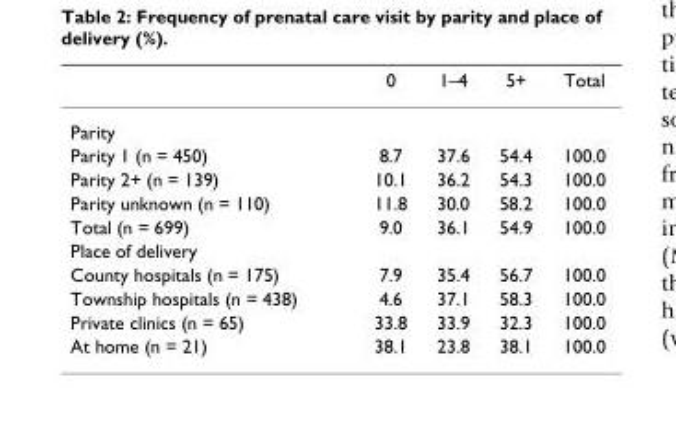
<table><thead><tr><td></td><td>0</td><td>1–4</td><td>5+</td><td>Total</td></tr></thead><tbody><tr><td colspan="5">Parity</td></tr><tr><td>Parity 1 (n = 450)</td><td>8.7</td><td>37.6</td><td>54.4</td><td>100.0</td></tr><tr><td>Parity 2+ (n = 139)</td><td>10.1</td><td>36.2</td><td>54.3</td><td>100.0</td></tr><tr><td>Parity unknown (n = 110)</td><td>11.8</td><td>30.0</td><td>58.2</td><td>100.0</td></tr><tr><td>Total (n = 699)</td><td>9.0</td><td>36.1</td><td>54.9</td><td>100.0</td></tr><tr><td colspan="5">Place of delivery</td></tr><tr><td>County hospitals (n = 175)</td><td>7.9</td><td>35.4</td><td>56.7</td><td>100.0</td></tr><tr><td>Township hospitals (n = 438)</td><td>4.6</td><td>37.1</td><td>58.3</td><td>100.0</td></tr><tr><td>Private clinics (n = 65)</td><td>33.8</td><td>33.9</td><td>32.3</td><td>100.0</td></tr><tr><td>At home (n = 21)</td><td>38.1</td><td>23.8</td><td>38.1</td><td>100.0</td></tr></tbody></table>